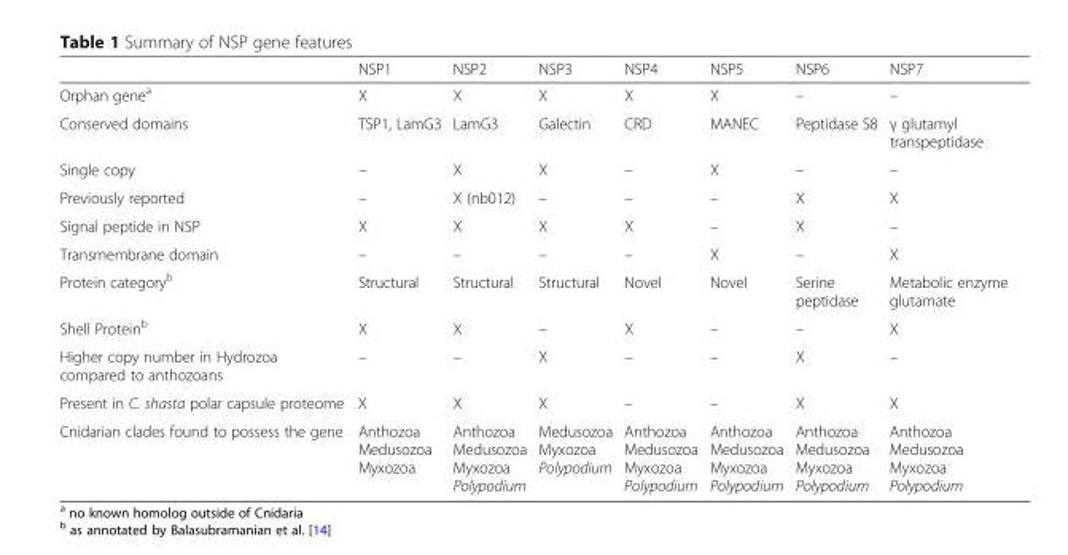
<table><thead><tr><td></td><td>NSP1</td><td>NSP2</td><td>NSP3</td><td>NSP4</td><td>NSP5</td><td>NSP6</td><td>NSP7</td></tr></thead><tbody><tr><td>Orphan gene<sup>a</sup></td><td>X</td><td>X</td><td>X</td><td>X</td><td>X</td><td>–</td><td>–</td></tr><tr><td>Conserved domains</td><td>TSP1, LamG3</td><td>LamG3</td><td>Galectin</td><td>CRD</td><td>MANEC</td><td>Peptidase S8</td><td>γ glutamyl transpeptidase</td></tr><tr><td>Single copy</td><td>–</td><td>X</td><td>X</td><td>–</td><td>X</td><td>–</td><td>–</td></tr><tr><td>Previously reported</td><td>–</td><td>X (nb012)</td><td>–</td><td>–</td><td>–</td><td>X</td><td>X</td></tr><tr><td>Signal peptide in NSP</td><td>X</td><td>X</td><td>X</td><td>X</td><td>–</td><td>X</td><td>–</td></tr><tr><td>Transmembrane domain</td><td>–</td><td>–</td><td>–</td><td>–</td><td>X</td><td>–</td><td>X</td></tr><tr><td>Protein category<sup>b</sup></td><td>Structural</td><td>Structural</td><td>Structural</td><td>Novel</td><td>Novel</td><td>Serine peptidase</td><td>Metabolic enzyme glutamate</td></tr><tr><td>Shell Protein<sup>b</sup></td><td>X</td><td>X</td><td>–</td><td>X</td><td>–</td><td>–</td><td>X</td></tr><tr><td>Higher copy number in Hydrozoa compared to anthozoans</td><td>–</td><td>–</td><td>X</td><td>–</td><td>–</td><td>X</td><td>–</td></tr><tr><td>Present in C. shasta polar capsule proteome</td><td>X</td><td>X</td><td>X</td><td>–</td><td>–</td><td>X</td><td>X</td></tr><tr><td>Cnidarian clades found to possess the gene</td><td>Anthozoa Medusozoa Myxozoa</td><td>Anthozoa Medusozoa Myxozoa Polypodium</td><td>Medusozoa Myxozoa Polypodium</td><td>Anthozoa Medusozoa Myxozoa Polypodium</td><td>Anthozoa Medusozoa Myxozoa Polypodium</td><td>Anthozoa Medusozoa Myxozoa Polypodium</td><td>Anthozoa Medusozoa Myxozoa Polypodium</td></tr></tbody></table>